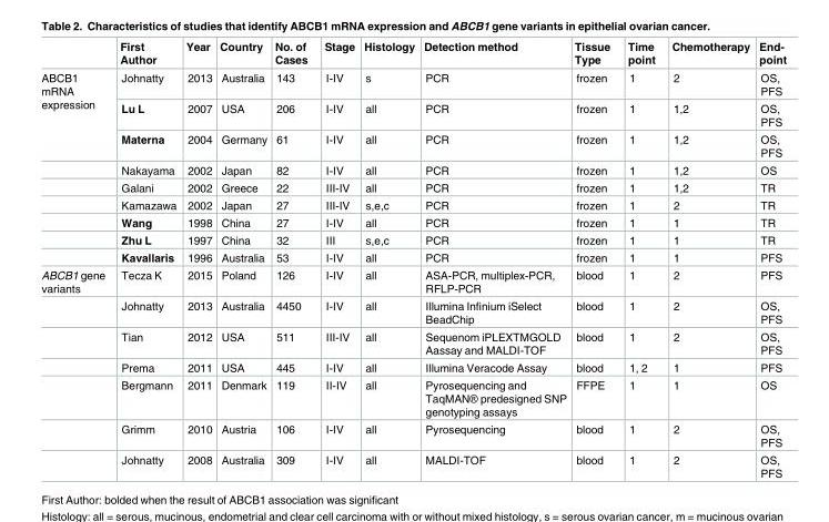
<table><thead><tr><td></td><td>First Author</td><td>Year</td><td>Country</td><td>No. of Cases</td><td>Stage</td><td>Histology</td><td>Detection method</td><td>Tissue Type</td><td>Time point</td><td>Chemotherapy</td><td>End- point</td></tr></thead><tbody><tr><td rowspan="9">ABCB1 mRNA expression</td><td>Johnatty</td><td>2013</td><td>Australia</td><td>143</td><td>I-IV</td><td>s</td><td>PCR</td><td>frozen</td><td>1</td><td>2</td><td>OS, PFS</td></tr><tr><td>Lu L</td><td>2007</td><td>USA</td><td>206</td><td>I-IV</td><td>all</td><td>PCR</td><td>frozen</td><td>1</td><td>1,2</td><td>OS, PFS</td></tr><tr><td>Materna</td><td>2004</td><td>Germany</td><td>61</td><td>I-IV</td><td>all</td><td>PCR</td><td>frozen</td><td>1</td><td>1,2</td><td>OS, PFS</td></tr><tr><td>Nakayama</td><td>2002</td><td>Japan</td><td>82</td><td>I-IV</td><td>all</td><td>PCR</td><td>frozen</td><td>1</td><td>1,2</td><td>OS</td></tr><tr><td>Galani</td><td>2002</td><td>Greece</td><td>22</td><td>III-IV</td><td>all</td><td>PCR</td><td>frozen</td><td>1</td><td>1,2</td><td>TR</td></tr><tr><td>Kamazawa</td><td>2002</td><td>Japan</td><td>27</td><td>III-IV</td><td>s,e,c</td><td>PCR</td><td>frozen</td><td>1</td><td>2</td><td>TR</td></tr><tr><td>Wang</td><td>1998</td><td>China</td><td>27</td><td>I-IV</td><td>all</td><td>PCR</td><td>frozen</td><td>1</td><td>1</td><td>TR</td></tr><tr><td>Zhu L</td><td>1997</td><td>China</td><td>32</td><td>III</td><td>s,e,c</td><td>PCR</td><td>frozen</td><td>1</td><td>1</td><td>TR</td></tr><tr><td>Kavallaris</td><td>1996</td><td>Australia</td><td>53</td><td>I-IV</td><td>all</td><td>PCR</td><td>frozen</td><td>1</td><td>1</td><td>PFS</td></tr><tr><td rowspan="7">ABCB1 gene variants</td><td>Tecza K</td><td>2015</td><td>Poland</td><td>126</td><td>I-IV</td><td>all</td><td>ASA-PCR, multiplex-PCR, RFLP-PCR</td><td>blood</td><td>1</td><td>2</td><td>PFS</td></tr><tr><td>Johnatty</td><td>2013</td><td>Australia</td><td>4450</td><td>I-IV</td><td>all</td><td>Illumina Infinium iSelect BeadChip</td><td>blood</td><td>1</td><td>2</td><td>OS, PFS</td></tr><tr><td>Tian</td><td>2012</td><td>USA</td><td>511</td><td>III-IV</td><td>all</td><td>Sequenom iPLEXTMGOLD Aassay and MALDI-TOF</td><td>blood</td><td>1</td><td>2</td><td>OS, PFS</td></tr><tr><td>Prema</td><td>2011</td><td>USA</td><td>445</td><td>I-IV</td><td>all</td><td>Illumina Veracode Assay</td><td>blood</td><td>1, 2</td><td>1</td><td>PFS</td></tr><tr><td>Bergmann</td><td>2011</td><td>Denmark</td><td>119</td><td>II-IV</td><td>all</td><td>Pyrosequencing and TaqMAN® predesigned SNP genotyping assays</td><td>FFPE</td><td>1</td><td>1</td><td>OS</td></tr><tr><td>Grimm</td><td>2010</td><td>Austria</td><td>106</td><td>I-IV</td><td>all</td><td>Pyrosequencing</td><td>blood</td><td>1</td><td>2</td><td>OS, PFS</td></tr><tr><td>Johnatty</td><td>2008</td><td>Australia</td><td>309</td><td>I-IV</td><td>all</td><td>MALDI-TOF</td><td>blood</td><td>1</td><td>2</td><td>OS, PFS</td></tr></tbody></table>